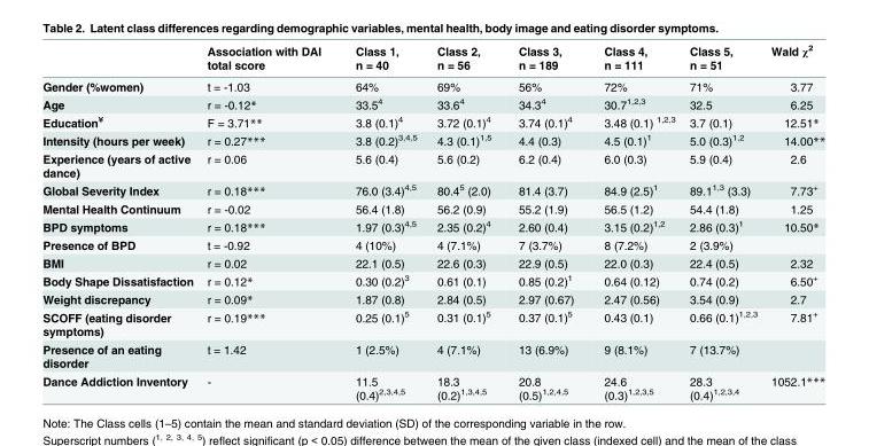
<table><thead><tr><td></td><td>Association with DAI total score</td><td>Class 1, n = 40</td><td>Class 2, n = 56</td><td>Class 3, n = 189</td><td>Class 4, n = 111</td><td>Class 5, n = 51</td><td>Wald χ<sup>2</sup></td></tr></thead><tbody><tr><td>Gender (%women)</td><td>t = -1.03</td><td>64%</td><td>69%</td><td>56%</td><td>72%</td><td>71%</td><td>3.77</td></tr><tr><td>Age</td><td>r = -0.12*</td><td>33.5<sup>4</sup></td><td>33.6<sup>4</sup></td><td>34.3<sup>4</sup></td><td>30.7<sup>1,2,3</sup></td><td>32.5</td><td>6.25</td></tr><tr><td>Education<sup>¥</sup></td><td>F = 3.71**</td><td>3.8 (0.1)<sup>4</sup></td><td>3.72 (0.1)<sup>4</sup></td><td>3.74 (0.1)<sup>4</sup></td><td>3.48 (0.1) <sup>1,2,3</sup></td><td>3.7 (0.1)</td><td>12.51*</td></tr><tr><td>Intensity (hours per week)</td><td>r = 0.27***</td><td>3.8 (0.2)<sup>3,4,5</sup></td><td>4.3 (0.1)<sup>1,5</sup></td><td>4.4 (0.3)</td><td>4.5 (0.1)<sup>1</sup></td><td>5.0 (0.3)<sup>1,2</sup></td><td>14.00**</td></tr><tr><td>Experience (years of active dance)</td><td>r = 0.06</td><td>5.6 (0.4)</td><td>5.6 (0.2)</td><td>6.2 (0.4)</td><td>6.0 (0.3)</td><td>5.9 (0.4)</td><td>2.6</td></tr><tr><td>Global Severity Index</td><td>r = 0.18***</td><td>76.0 (3.4)<sup>4,5</sup></td><td>80.4<sup>5</sup> (2.0)</td><td>81.4 (3.7)</td><td>84.9 (2.5)<sup>1</sup></td><td>89.1<sup>1,3</sup> (3.3)</td><td>7.73<sup>+</sup></td></tr><tr><td>Mental Health Continuum</td><td>r = -0.02</td><td>56.4 (1.8)</td><td>56.2 (0.9)</td><td>55.2 (1.9)</td><td>56.5 (1.2)</td><td>54.4 (1.8)</td><td>1.25</td></tr><tr><td>BPD symptoms</td><td>r = 0.18***</td><td>1.97 (0.3)<sup>4,5</sup></td><td>2.35 (0.2)<sup>4</sup></td><td>2.60 (0.4)</td><td>3.15 (0.2)<sup>1,2</sup></td><td>2.86 (0.3)<sup>1</sup></td><td>10.50*</td></tr><tr><td>Presence of BPD</td><td>t = -0.92</td><td>4 (10%)</td><td>4 (7.1%)</td><td>7 (3.7%)</td><td>8 (7.2%)</td><td>2 (3.9%)</td><td></td></tr><tr><td>BMI</td><td>r = 0.02</td><td>22.1 (0.5)</td><td>22.6 (0.3)</td><td>22.9 (0.5)</td><td>22.0 (0.3)</td><td>22.4 (0.5)</td><td>2.32</td></tr><tr><td>Body Shape Dissatisfaction</td><td>r = 0.12*</td><td>0.30 (0.2)<sup>3</sup></td><td>0.61 (0.1)</td><td>0.85 (0.2)<sup>1</sup></td><td>0.64 (0.12)</td><td>0.74 (0.2)</td><td>6.50<sup>+</sup></td></tr><tr><td>Weight discrepancy</td><td>r = 0.09*</td><td>1.87 (0.8)</td><td>2.84 (0.5)</td><td>2.97 (0.67)</td><td>2.47 (0.56)</td><td>3.54 (0.9)</td><td>2.7</td></tr><tr><td>SCOFF (eating disorder symptoms)</td><td>r = 0.19***</td><td>0.25 (0.1)<sup>5</sup></td><td>0.31 (0.1)<sup>5</sup></td><td>0.37 (0.1)<sup>5</sup></td><td>0.43 (0.1)</td><td>0.66 (0.1)<sup>1,2,3</sup></td><td>7.81<sup>+</sup></td></tr><tr><td>Presence of an eating disorder</td><td>t = 1.42</td><td>1 (2.5%)</td><td>4 (7.1%)</td><td>13 (6.9%)</td><td>9 (8.1%)</td><td>7 (13.7%)</td><td></td></tr><tr><td>Dance Addiction Inventory</td><td>-</td><td>11.5 (0.4)<sup>2,3,4,5</sup></td><td>18.3 (0.2)<sup>1,3,4,5</sup></td><td>20.8 (0.5)<sup>1,2,4,5</sup></td><td>24.6 (0.3)<sup>1,2,3,5</sup></td><td>28.3 (0.4)<sup>1,2,3,4</sup></td><td>1052.1***</td></tr></tbody></table>